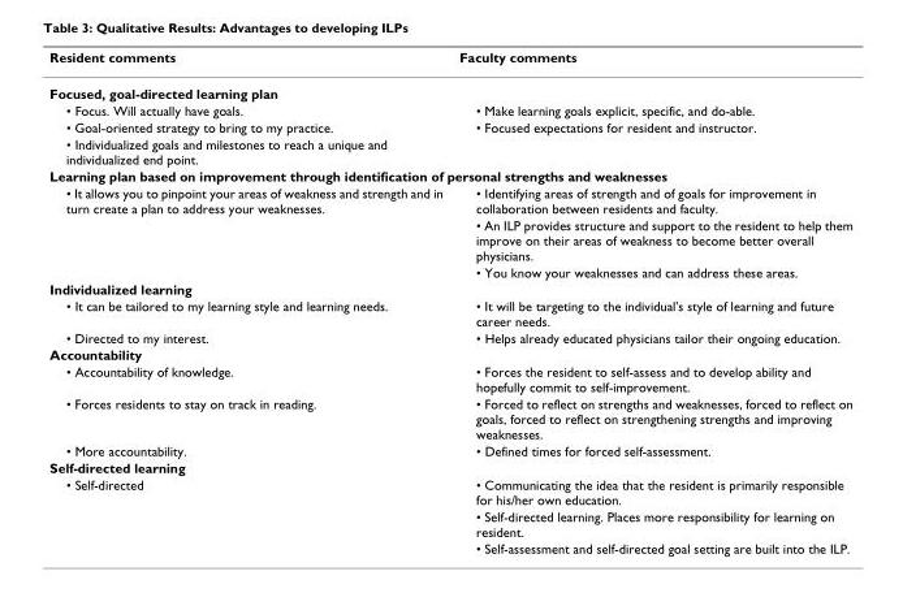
<table><thead><tr><td>Resident comments</td><td>Faculty comments</td></tr></thead><tbody><tr><td colspan="2">Focused, goal-directed learning plan</td></tr><tr><td>• Focus. Will actually have goals.</td><td>• Make learning goals explicit, specific, and do-able.</td></tr><tr><td>• Goal-oriented strategy to bring to my practice.</td><td>• Focused expectations for resident and instructor.</td></tr><tr><td colspan="2">• Individualized goals and milestones to reach a unique and individualized end point.</td></tr><tr><td colspan="2">Learning plan based on improvement through identification of personal strengths and weaknesses</td></tr><tr><td rowspan="3">• It allows you to pinpoint your areas of weakness and strength and in turn create a plan to address your weaknesses.</td><td>• Identifying areas of strength and of goals for improvement in collaboration between residents and faculty.</td></tr><tr><td>• An ILP provides structure and support to the resident to help them improve on their areas of weakness to become better overall physicians.</td></tr><tr><td>• You know your weaknesses and can address these areas.</td></tr><tr><td colspan="2">Individualized learning</td></tr><tr><td>• It can be tailored to my learning style and learning needs.</td><td>• It will be targeting to the individual&#x27;s style of learning and future career needs.</td></tr><tr><td>• Directed to my interest.</td><td>• Helps already educated physicians tailor their ongoing education.</td></tr><tr><td colspan="2">Accountability</td></tr><tr><td>• Accountability of knowledge.</td><td>• Forces the resident to self-assess and to develop ability and hopefully commit to self-improvement.</td></tr><tr><td>• Forces residents to stay on track in reading.</td><td>• Forced to reflect on strengths and weaknesses, forced to reflect on goals, forced to reflect on strengthening strengths and improving weaknesses.</td></tr><tr><td>• More accountability.</td><td>• Defined times for forced self-assessment.</td></tr><tr><td colspan="2">Self-directed learning</td></tr><tr><td rowspan="3">• Self-directed</td><td>• Communicating the idea that the resident is primarily responsible for his/her own education.</td></tr><tr><td>• Self-directed learning. Places more responsibility for learning on resident.</td></tr><tr><td>• Self-assessment and self-directed goal setting are built into the ILP.</td></tr></tbody></table>